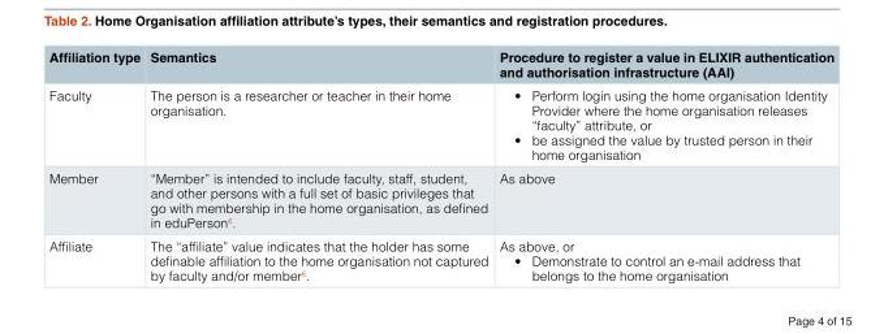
<table><thead><tr><td>Affiliation type</td><td>Semantics</td><td>Procedure to register a value in ELIXIR authentication and authorisation infrastructure (AAI)</td></tr></thead><tbody><tr><td>Faculty</td><td>The person is a researcher or teacher in their home organisation.</td><td>• Perform login using the home organisation Identity Provider where the home organisation releases “faculty” attribute, or • be assigned the value by trusted person in their home organisation</td></tr><tr><td>Member</td><td>“Member” is intended to include faculty, staff, student, and other persons with a full set of basic privileges that go with membership in the home organisation, as defined in eduPerson6.</td><td>As above</td></tr><tr><td>Affiliate</td><td>The “affiliate” value indicates that the holder has some definable affiliation to the home organisation not captured by faculty and/or member6.</td><td>As above, or • Demonstrate to control an e-mail address that belongs to the home organisation</td></tr></tbody></table>